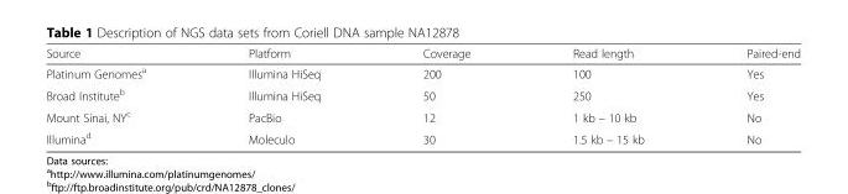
<table><thead><tr><td>Source</td><td>Platform</td><td>Coverage</td><td>Read length</td><td>Paired-end</td></tr></thead><tbody><tr><td>Platinum Genomes<sup>a</sup></td><td>Illumina HiSeq</td><td>200</td><td>100</td><td>Yes</td></tr><tr><td>Broad Institute<sup>b</sup></td><td>Illumina HiSeq</td><td>50</td><td>250</td><td>Yes</td></tr><tr><td>Mount Sinai, NY<sup>c</sup></td><td>PacBio</td><td>12</td><td>1 kb – 10 kb</td><td>No</td></tr><tr><td>Illumina<sup>d</sup></td><td>Moleculo</td><td>30</td><td>1.5 kb – 15 kb</td><td>No</td></tr></tbody></table>